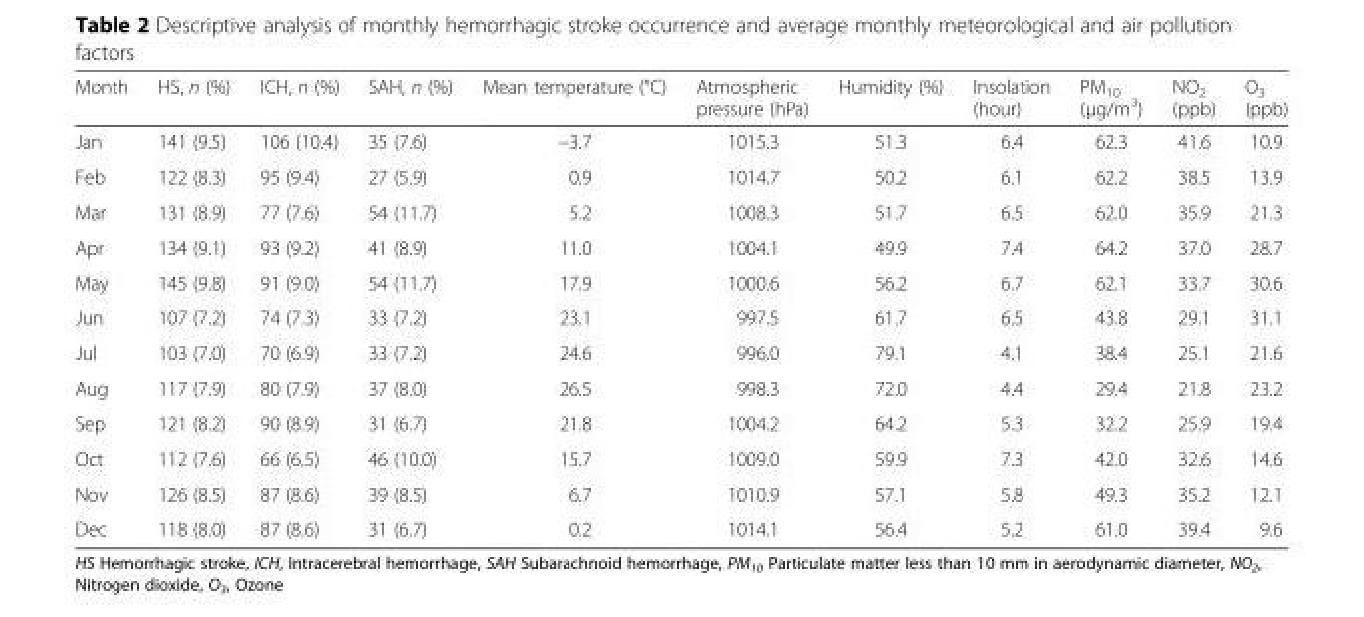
<table><thead><tr><td>Month</td><td>HS, n (%)</td><td>ICH, n (%)</td><td>SAH, n (%)</td><td>Mean temperature (°C)</td><td>Atmospheric pressure (hPa)</td><td>Humidity (%)</td><td>Insolation (hour)</td><td>PM<sub>10</sub> (μg/m<sup>3</sup>)</td><td>NO<sub>2</sub> (ppb)</td><td>O<sub>3</sub> (ppb)</td></tr></thead><tbody><tr><td>Jan</td><td>141 (9.5)</td><td>106 (10.4)</td><td>35 (7.6)</td><td>−3.7</td><td>1015.3</td><td>51.3</td><td>6.4</td><td>62.3</td><td>41.6</td><td>10.9</td></tr><tr><td>Feb</td><td>122 (8.3)</td><td>95 (9.4)</td><td>27 (5.9)</td><td>0.9</td><td>1014.7</td><td>50.2</td><td>6.1</td><td>62.2</td><td>38.5</td><td>13.9</td></tr><tr><td>Mar</td><td>131 (8.9)</td><td>77 (7.6)</td><td>54 (11.7)</td><td>5.2</td><td>1008.3</td><td>51.7</td><td>6.5</td><td>62.0</td><td>35.9</td><td>21.3</td></tr><tr><td>Apr</td><td>134 (9.1)</td><td>93 (9.2)</td><td>41 (8.9)</td><td>11.0</td><td>1004.1</td><td>49.9</td><td>7.4</td><td>64.2</td><td>37.0</td><td>28.7</td></tr><tr><td>May</td><td>145 (9.8)</td><td>91 (9.0)</td><td>54 (11.7)</td><td>17.9</td><td>1000.6</td><td>56.2</td><td>6.7</td><td>62.1</td><td>33.7</td><td>30.6</td></tr><tr><td>Jun</td><td>107 (7.2)</td><td>74 (7.3)</td><td>33 (7.2)</td><td>23.1</td><td>997.5</td><td>61.7</td><td>6.5</td><td>43.8</td><td>29.1</td><td>31.1</td></tr><tr><td>Jul</td><td>103 (7.0)</td><td>70 (6.9)</td><td>33 (7.2)</td><td>24.6</td><td>996.0</td><td>79.1</td><td>4.1</td><td>38.4</td><td>25.1</td><td>21.6</td></tr><tr><td>Aug</td><td>117 (7.9)</td><td>80 (7.9)</td><td>37 (8.0)</td><td>26.5</td><td>998.3</td><td>72.0</td><td>4.4</td><td>29.4</td><td>21.8</td><td>23.2</td></tr><tr><td>Sep</td><td>121 (8.2)</td><td>90 (8.9)</td><td>31 (6.7)</td><td>21.8</td><td>1004.2</td><td>64.2</td><td>5.3</td><td>32.2</td><td>25.9</td><td>19.4</td></tr><tr><td>Oct</td><td>112 (7.6)</td><td>66 (6.5)</td><td>46 (10.0)</td><td>15.7</td><td>1009.0</td><td>59.9</td><td>7.3</td><td>42.0</td><td>32.6</td><td>14.6</td></tr><tr><td>Nov</td><td>126 (8.5)</td><td>87 (8.6)</td><td>39 (8.5)</td><td>6.7</td><td>1010.9</td><td>57.1</td><td>5.8</td><td>49.3</td><td>35.2</td><td>12.1</td></tr><tr><td>Dec</td><td>118 (8.0)</td><td>87 (8.6)</td><td>31 (6.7)</td><td>0.2</td><td>1014.1</td><td>56.4</td><td>5.2</td><td>61.0</td><td>39.4</td><td>9.6</td></tr></tbody></table>